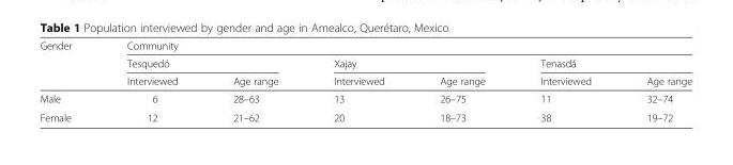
<table><thead><tr><td rowspan="3">Gender</td><td colspan="6">Community</td></tr><tr><td colspan="2">Tesquedó</td><td colspan="2">Xajay</td><td colspan="2">Tenasdá</td></tr><tr><td>Interviewed</td><td>Age range</td><td>Interviewed</td><td>Age range</td><td>Interviewed</td><td>Age range</td></tr></thead><tbody><tr><td>Male</td><td>6</td><td>28–63</td><td>13</td><td>26–75</td><td>11</td><td>32–74</td></tr><tr><td>Female</td><td>12</td><td>21–62</td><td>20</td><td>18–73</td><td>38</td><td>19–72</td></tr></tbody></table>